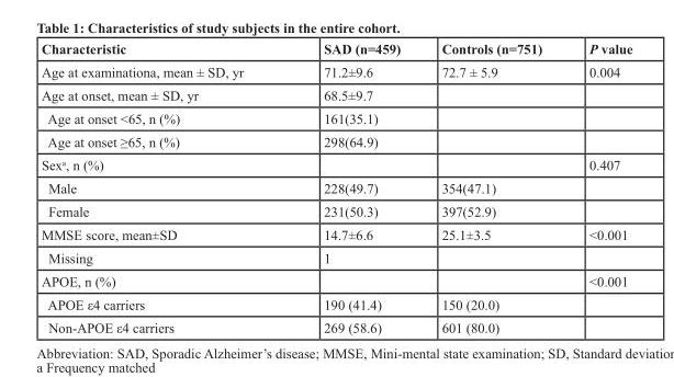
<table><thead><tr><td>Characteristic</td><td>SAD (n=459)</td><td>Controls (n=751)</td><td>P value</td></tr></thead><tbody><tr><td>Age at examinationa, mean ± SD, yr</td><td>71.2±9.6</td><td>72.7 ± 5.9</td><td>0.004</td></tr><tr><td>Age at onset, mean ± SD, yr</td><td>68.5±9.7</td><td></td><td></td></tr><tr><td>Age at onset &lt;65, n (%)</td><td>161(35.1)</td><td></td><td></td></tr><tr><td>Age at onset ≥65, n (%)</td><td>298(64.9)</td><td></td><td></td></tr><tr><td>Sex<sup>a</sup>, n (%)</td><td></td><td></td><td>0.407</td></tr><tr><td>Male</td><td>228(49.7)</td><td>354(47.1)</td><td></td></tr><tr><td>Female</td><td>231(50.3)</td><td>397(52.9)</td><td></td></tr><tr><td>MMSE score, mean±SD</td><td>14.7±6.6</td><td>25.1±3.5</td><td>&lt;0.001</td></tr><tr><td>Missing</td><td>1</td><td></td><td></td></tr><tr><td>APOE, n (%)</td><td></td><td></td><td>&lt;0.001</td></tr><tr><td>APOE ε4 carriers</td><td>190 (41.4)</td><td>150 (20.0)</td><td></td></tr><tr><td>Non-APOE ε4 carriers</td><td>269 (58.6)</td><td>601 (80.0)</td><td></td></tr></tbody></table>